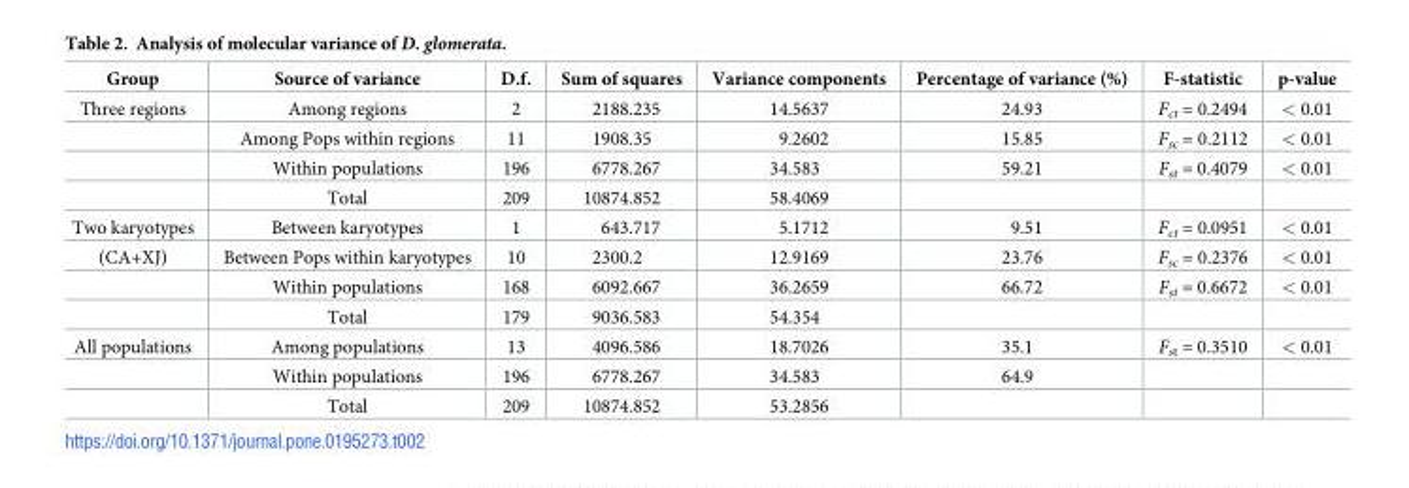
<table><thead><tr><td>Group</td><td>Source of variance</td><td>D.f.</td><td>Sum of squares</td><td>Variance components</td><td>Percentage of variance (%)</td><td>F-statistic</td><td>p-value</td></tr></thead><tbody><tr><td rowspan="4">Three regions</td><td>Among regions</td><td>2</td><td>2188.235</td><td>14.5637</td><td>24.93</td><td>F<sub>ct</sub> = 0.2494</td><td>&lt; 0.01</td></tr><tr><td>Among Pops within regions</td><td>11</td><td>1908.35</td><td>9.2602</td><td>15.85</td><td>F<sub>sc</sub> = 0.2112</td><td>&lt; 0.01</td></tr><tr><td>Within populations</td><td>196</td><td>6778.267</td><td>34.583</td><td>59.21</td><td>F<sub>st</sub> = 0.4079</td><td>&lt; 0.01</td></tr><tr><td>Total</td><td>209</td><td>10874.852</td><td>58.4069</td><td></td><td></td><td></td></tr><tr><td>Two karyotypes</td><td>Between karyotypes</td><td>1</td><td>643.717</td><td>5.1712</td><td>9.51</td><td>F<sub>ct</sub> = 0.0951</td><td>&lt; 0.01</td></tr><tr><td rowspan="3">(CA+XJ)</td><td>Between Pops within karyotypes</td><td>10</td><td>2300.2</td><td>12.9169</td><td>23.76</td><td>F<sub>sc</sub> = 0.2376</td><td>&lt; 0.01</td></tr><tr><td>Within populations</td><td>168</td><td>6092.667</td><td>36.2659</td><td>66.72</td><td>F<sub>st</sub> = 0.6672</td><td>&lt; 0.01</td></tr><tr><td>Total</td><td>179</td><td>9036.583</td><td>54.354</td><td></td><td></td><td></td></tr><tr><td rowspan="3">All populations</td><td>Among populations</td><td>13</td><td>4096.586</td><td>18.7026</td><td>35.1</td><td>F<sub>st</sub> = 0.3510</td><td>&lt; 0.01</td></tr><tr><td>Within populations</td><td>196</td><td>6778.267</td><td>34.583</td><td>64.9</td><td></td><td></td></tr><tr><td>Total</td><td>209</td><td>10874.852</td><td>53.2856</td><td></td><td></td><td></td></tr></tbody></table>